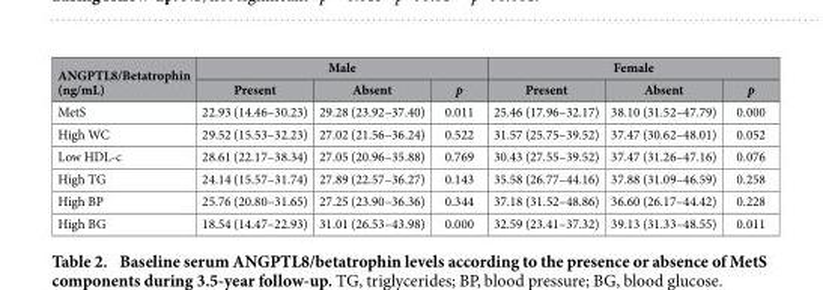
<table><thead><tr><td rowspan="2">ANGPTL8/Betatrophin (ng/mL)</td><td colspan="3">Male</td><td colspan="3">Female</td></tr><tr><td>Present</td><td>Absent</td><td>p</td><td>Present</td><td>Absent</td><td>p</td></tr></thead><tbody><tr><td>MetS</td><td>22.93 (14.46–30.23)</td><td>29.28 (23.92–37.40)</td><td>0.011</td><td>25.46 (17.96–32.17)</td><td>38.10 (31.52–47.79)</td><td>0.000</td></tr><tr><td>High WC</td><td>29.52 (15.53–32.23)</td><td>27.02 (21.56–36.24)</td><td>0.522</td><td>31.57 (25.75–39.52)</td><td>37.47 (30.62–48.01)</td><td>0.052</td></tr><tr><td>Low HDL-c</td><td>28.61 (22.17–38.34)</td><td>27.05 (20.96–35.88)</td><td>0.769</td><td>30.43 (27.55–39.52)</td><td>37.47 (31.26–47.16)</td><td>0.076</td></tr><tr><td>High TG</td><td>24.14 (15.57–31.74)</td><td>27.89 (22.57–36.27)</td><td>0.143</td><td>35.58 (26.77–44.16)</td><td>37.88 (31.09–46.59)</td><td>0.258</td></tr><tr><td>High BP</td><td>25.76 (20.80–31.65)</td><td>27.25 (23.90–36.36)</td><td>0.344</td><td>37.18 (31.52–48.86)</td><td>36.60 (26.17–44.42)</td><td>0.228</td></tr><tr><td>High BG</td><td>18.54 (14.47–22.93)</td><td>31.01 (26.53–43.98)</td><td>0.000</td><td>32.59 (23.41–37.32)</td><td>39.13 (31.33–48.55)</td><td>0.011</td></tr></tbody></table>